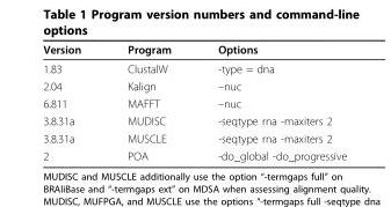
<table><thead><tr><td>Version</td><td>Program</td><td>Options</td></tr></thead><tbody><tr><td>1.83</td><td>ClustalW</td><td>-type = dna</td></tr><tr><td>2.04</td><td>Kalign</td><td>–nuc</td></tr><tr><td>6.811</td><td>MAFFT</td><td>–nuc</td></tr><tr><td>3.8.31a</td><td>MUDISC</td><td>-seqtype rna -maxiters 2</td></tr><tr><td>3.8.31a</td><td>MUSCLE</td><td>-seqtype rna -maxiters 2</td></tr><tr><td>2</td><td>POA</td><td>-do_global -do_progressive</td></tr></tbody></table>